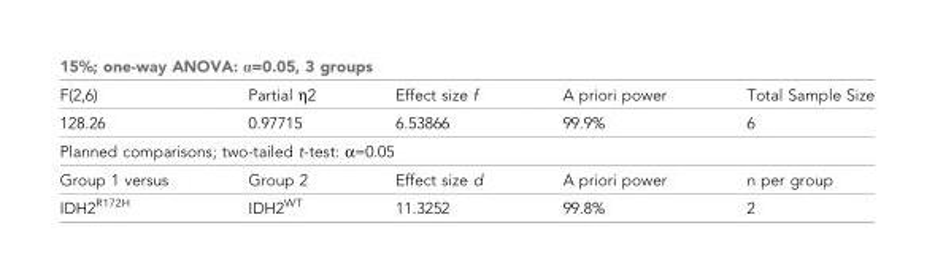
<table><thead><tr><td colspan="5">15%; one-way ANOVA: α=0.05, 3 groups</td></tr><tr><td>F(2,6)</td><td>Partial η2</td><td>Effect size f</td><td>A priori power</td><td>Total Sample Size</td></tr></thead><tbody><tr><td>128.26</td><td>0.97715</td><td>6.53866</td><td>99.9%</td><td>6</td></tr><tr><td colspan="5">Planned comparisons; two-tailed t-test: α=0.05</td></tr><tr><td>Group 1 versus</td><td>Group 2</td><td>Effect size d</td><td>A priori power</td><td>n per group</td></tr><tr><td>IDH2<sup>R172H</sup></td><td>IDH2<sup>WT</sup></td><td>11.3252</td><td>99.8%</td><td>2</td></tr></tbody></table>